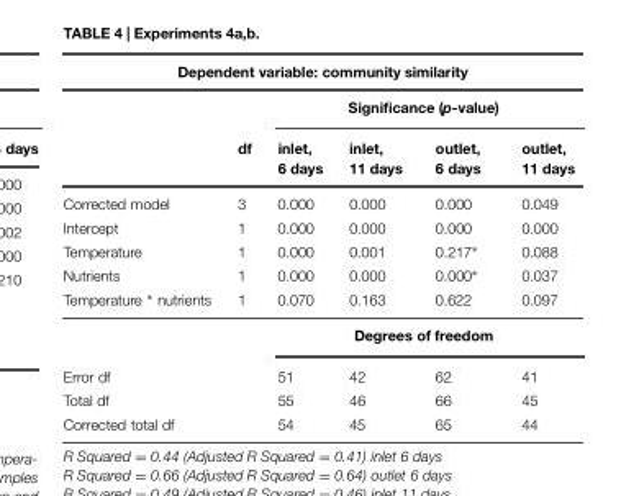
<table><thead><tr><td colspan="6">Dependent variable: community similarity</td></tr><tr><td rowspan="2"></td><td rowspan="2">df</td><td colspan="4">Significance (p-value)</td></tr><tr><td>inlet, 6 days</td><td>inlet, 11 days</td><td>outlet, 6 days</td><td>outlet, 11 days</td></tr></thead><tbody><tr><td>Corrected model</td><td>3</td><td>0.000</td><td>0.000</td><td>0.000</td><td>0.049</td></tr><tr><td>Intercept</td><td>1</td><td>0.000</td><td>0.000</td><td>0.000</td><td>0.000</td></tr><tr><td>Temperature</td><td>1</td><td>0.000</td><td>0.001</td><td>0.217∗</td><td>0.088</td></tr><tr><td>Nutrients</td><td>1</td><td>0.000</td><td>0.000</td><td>0.000∗</td><td>0.037</td></tr><tr><td rowspan="2">Temperature ∗ nutrients</td><td>1</td><td>0.070</td><td>0.163</td><td>0.622</td><td>0.097</td></tr><tr><td></td><td colspan="4">Degrees of freedom</td></tr><tr><td>Error df</td><td></td><td>51</td><td>42</td><td>62</td><td>41</td></tr><tr><td>Total df</td><td></td><td>55</td><td>46</td><td>66</td><td>45</td></tr><tr><td>Corrected total df</td><td></td><td>54</td><td>45</td><td>65</td><td>44</td></tr></tbody></table>